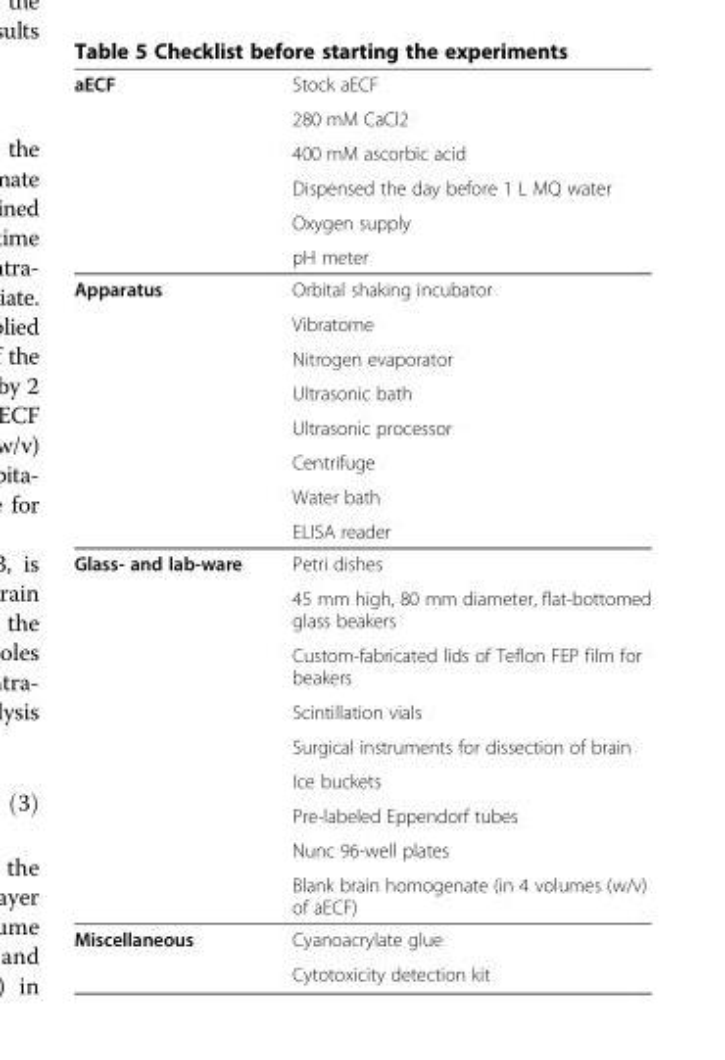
<table><tbody><tr><td rowspan="6">aECF</td><td>Stock aECF</td></tr><tr><td>280 mM CaCl2</td></tr><tr><td>400 mM ascorbic acid</td></tr><tr><td>Dispensed the day before 1 L MQ water</td></tr><tr><td>Oxygen supply</td></tr><tr><td>pH meter</td></tr><tr><td rowspan="8">Apparatus</td><td>Orbital shaking incubator</td></tr><tr><td>Vibratome</td></tr><tr><td>Nitrogen evaporator</td></tr><tr><td>Ultrasonic bath</td></tr><tr><td>Ultrasonic processor</td></tr><tr><td>Centrifuge</td></tr><tr><td>Water bath</td></tr><tr><td>ELISA reader</td></tr><tr><td rowspan="9">Glass- and lab-ware</td><td>Petri dishes</td></tr><tr><td>45 mm high, 80 mm diameter, flat-bottomed glass beakers</td></tr><tr><td>Custom-fabricated lids of Teflon FEP film for beakers</td></tr><tr><td>Scintillation vials</td></tr><tr><td>Surgical instruments for dissection of brain</td></tr><tr><td>Ice buckets</td></tr><tr><td>Pre-labeled Eppendorf tubes</td></tr><tr><td>Nunc 96-well plates</td></tr><tr><td>Blank brain homogenate (in 4 volumes (w/v) of aECF)</td></tr><tr><td rowspan="2">Miscellaneous</td><td>Cyanoacrylate glue</td></tr><tr><td>Cytotoxicity detection kit</td></tr></tbody></table>